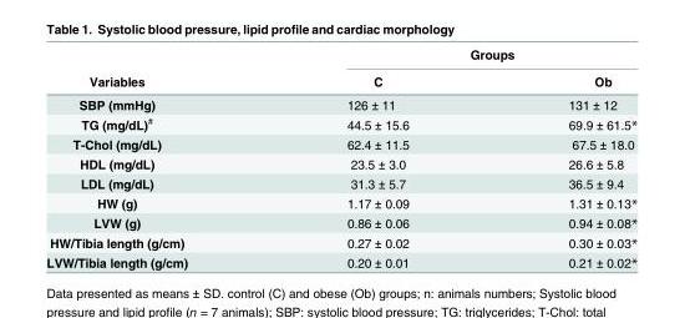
<table><thead><tr><td rowspan="2">Variables</td><td colspan="2">Groups</td></tr><tr><td>C</td><td>Ob</td></tr></thead><tbody><tr><td>SBP (mmHg)</td><td>126 ± 11</td><td>131 ± 12</td></tr><tr><td>TG (mg/dL)<sup>#</sup></td><td>44.5 ± 15.6</td><td>69.9 ± 61.5*</td></tr><tr><td>T-Chol (mg/dL)</td><td>62.4 ± 11.5</td><td>67.5 ± 18.0</td></tr><tr><td>HDL (mg/dL)</td><td>23.5 ± 3.0</td><td>26.6 ± 5.8</td></tr><tr><td>LDL (mg/dL)</td><td>31.3 ± 5.7</td><td>36.5 ± 9.4</td></tr><tr><td>HW (g)</td><td>1.17 ± 0.09</td><td>1.31 ± 0.13*</td></tr><tr><td>LVW (g)</td><td>0.86 ± 0.06</td><td>0.94 ± 0.08*</td></tr><tr><td>HW/Tibia length (g/cm)</td><td>0.27 ± 0.02</td><td>0.30 ± 0.03*</td></tr><tr><td>LVW/Tibia length (g/cm)</td><td>0.20 ± 0.01</td><td>0.21 ± 0.02*</td></tr></tbody></table>